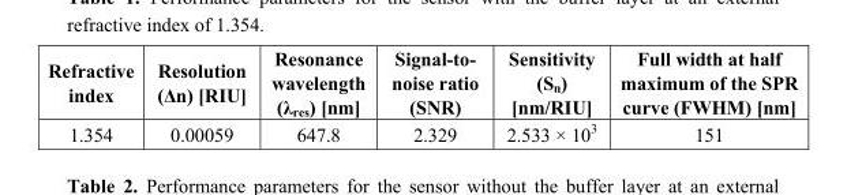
<table><thead><tr><td>Refractive index</td><td>Resolution (Δn) [RIU]</td><td>Resonance wavelength (λ<sub>res</sub>) [nm]</td><td>Signal-to- noise ratio (SNR)</td><td>Sensitivity (S<sub>n</sub>) [nm/RIU]</td><td>Full width at half maximum of the SPR curve (FWHM) [nm]</td></tr></thead><tbody><tr><td>1.354</td><td>0.00059</td><td>647.8</td><td>2.329</td><td>2.533 × 10<sup>3</sup></td><td>151</td></tr></tbody></table>